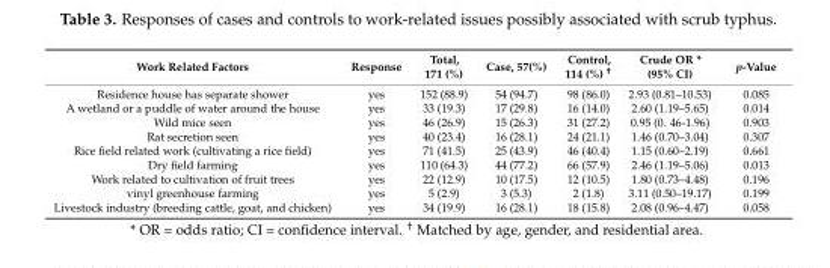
<table><thead><tr><td>Work Related Factors</td><td>Response</td><td>Total, 171 (%)</td><td>Case, 57(%)</td><td>Control, 114 (%) <sup>†</sup></td><td>Crude OR * (95% CI)</td><td>p-Value</td></tr></thead><tbody><tr><td>Residence house has separate shower</td><td>yes</td><td>152 (88.9)</td><td>54 (94.7)</td><td>98 (86.0)</td><td>2.93 (0.81–10.53)</td><td>0.085</td></tr><tr><td>A wetland or a puddle of water around the house</td><td>yes</td><td>33 (19.3)</td><td>17 (29.8)</td><td>16 (14.0)</td><td>2.60 (1.19–5.65)</td><td>0.014</td></tr><tr><td>Wild mice seen</td><td>yes</td><td>46 (26.9)</td><td>15 (26.3)</td><td>31 (27.2)</td><td>0.95 (0. 46-1.96)</td><td>0.903</td></tr><tr><td>Rat secretion seen</td><td>yes</td><td>40 (23.4)</td><td>16 (28.1)</td><td>24 (21.1)</td><td>1.46 (0.70–3.04)</td><td>0.307</td></tr><tr><td>Rice field related work (cultivating a rice field)</td><td>yes</td><td>71 (41.5)</td><td>25 (43.9)</td><td>46 (40.4)</td><td>1.15 (0.60–2.19)</td><td>0.661</td></tr><tr><td>Dry field farming</td><td>yes</td><td>110 (64.3)</td><td>44 (77.2)</td><td>66 (57.9)</td><td>2.46 (1.19–5.06)</td><td>0.013</td></tr><tr><td>Work related to cultivation of fruit trees</td><td>yes</td><td>22 (12.9)</td><td>10 (17.5)</td><td>12 (10.5)</td><td>1.80 (0.73–4.48)</td><td>0.196</td></tr><tr><td>vinyl greenhouse farming</td><td>yes</td><td>5 (2.9)</td><td>3 (5.3)</td><td>2 (1.8)</td><td>3.11 (0.50–19.17)</td><td>0.199</td></tr><tr><td>Livestock industry (breeding cattle, goat, and chicken)</td><td>yes</td><td>34 (19.9)</td><td>16 (28.1)</td><td>18 (15.8)</td><td>2.08 (0.96–4.47)</td><td>0.058</td></tr></tbody></table>